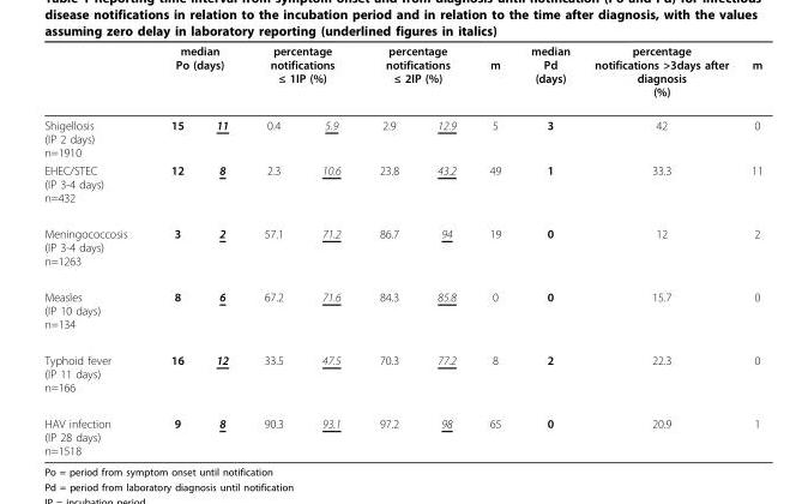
<table><thead><tr><td rowspan="2">Shigellosis (IP 2 days) n=1910</td><td colspan="2">median Po (days)</td><td colspan="2">percentage notifications ≤ 1IP (%)</td><td colspan="2">percentage notifications ≤ 2IP (%)</td><td rowspan="2">m 5</td><td rowspan="2">median Pd (days) 3</td><td rowspan="2">percentage notifications &gt;3days after diagnosis (%) 42</td><td rowspan="2">m 0</td></tr><tr><td>15</td><td>11</td><td>0.4</td><td>5.9</td><td>2.9</td><td>12.9</td></tr></thead><tbody><tr><td>EHEC/STEC (IP 3-4 days) n=432</td><td>12</td><td>8</td><td>2.3</td><td>10.6</td><td>23.8</td><td>43.2</td><td>49</td><td>1</td><td>33.3</td><td>11</td></tr><tr><td>Meningococcosis (IP 3-4 days) n=1263</td><td>3</td><td>2</td><td>57.1</td><td>71.2</td><td>86.7</td><td>94</td><td>19</td><td>0</td><td>12</td><td>2</td></tr><tr><td>Measles (IP 10 days) n=134</td><td>8</td><td>6</td><td>67.2</td><td>71.6</td><td>84.3</td><td>85.8</td><td>0</td><td>0</td><td>15.7</td><td>0</td></tr><tr><td>Typhoid fever (IP 11 days) n=166</td><td>16</td><td>12</td><td>33.5</td><td>47.5</td><td>70.3</td><td>77.2</td><td>8</td><td>2</td><td>22.3</td><td>0</td></tr><tr><td>HAV infection (IP 28 days) n=1518</td><td>9</td><td>8</td><td>90.3</td><td>93.1</td><td>97.2</td><td>98</td><td>65</td><td>0</td><td>20.9</td><td>1</td></tr></tbody></table>